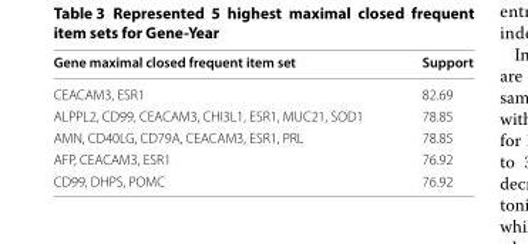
<table><thead><tr><td>Gene maximal closed frequent item set</td><td>Support</td></tr></thead><tbody><tr><td>CEACAM3, ESR1</td><td>82.69</td></tr><tr><td>ALPPL2, CD99, CEACAM3, CHI3L1, ESR1, MUC21, SOD1</td><td>78.85</td></tr><tr><td>AMN, CD40LG, CD79A, CEACAM3, ESR1, PRL</td><td>78.85</td></tr><tr><td>AFP, CEACAM3, ESR1</td><td>76.92</td></tr><tr><td>CD99, DHPS, POMC</td><td>76.92</td></tr></tbody></table>